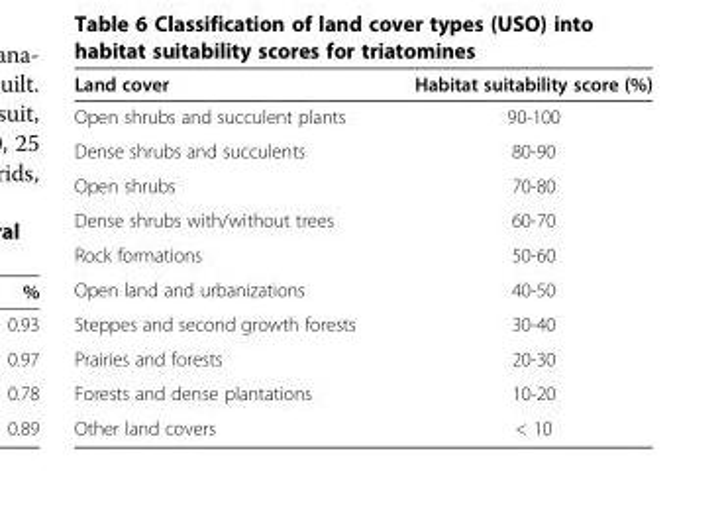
<table><thead><tr><td>Land cover</td><td>Habitat suitability score (%)</td></tr></thead><tbody><tr><td>Open shrubs and succulent plants</td><td>90-100</td></tr><tr><td>Dense shrubs and succulents</td><td>80-90</td></tr><tr><td>Open shrubs</td><td>70-80</td></tr><tr><td>Dense shrubs with/without trees</td><td>60-70</td></tr><tr><td>Rock formations</td><td>50-60</td></tr><tr><td>Open land and urbanizations</td><td>40-50</td></tr><tr><td>Steppes and second growth forests</td><td>30-40</td></tr><tr><td>Prairies and forests</td><td>20-30</td></tr><tr><td>Forests and dense plantations</td><td>10-20</td></tr><tr><td>Other land covers</td><td>&lt; 10</td></tr></tbody></table>